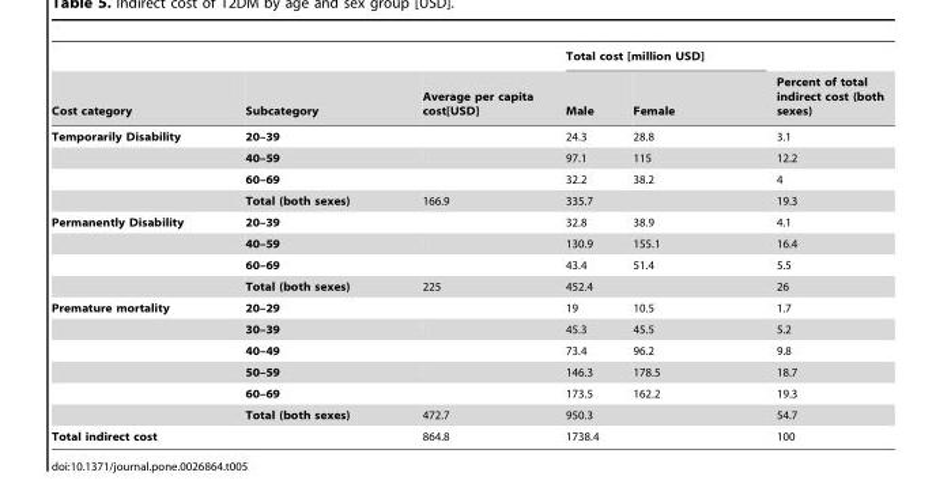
<table><thead><tr><td rowspan="2">Cost category</td><td rowspan="2">Subcategory</td><td rowspan="2">Average per capita cost[USD]</td><td colspan="2">Total cost [million USD]</td><td rowspan="2">Percent of total indirect cost (both sexes)</td></tr><tr><td>Male</td><td>Female</td></tr></thead><tbody><tr><td rowspan="4">Temporarily Disability</td><td>20–39</td><td></td><td>24.3</td><td>28.8</td><td>3.1</td></tr><tr><td>40–59</td><td></td><td>97.1</td><td>115</td><td>12.2</td></tr><tr><td>60–69</td><td></td><td>32.2</td><td>38.2</td><td>4</td></tr><tr><td>Total (both sexes)</td><td>166.9</td><td colspan="2">335.7</td><td>19.3</td></tr><tr><td rowspan="4">Permanently Disability</td><td>20–39</td><td></td><td>32.8</td><td>38.9</td><td>4.1</td></tr><tr><td>40–59</td><td></td><td>130.9</td><td>155.1</td><td>16.4</td></tr><tr><td>60–69</td><td></td><td>43.4</td><td>51.4</td><td>5.5</td></tr><tr><td>Total (both sexes)</td><td>225</td><td colspan="2">452.4</td><td>26</td></tr><tr><td rowspan="6">Premature mortality</td><td>20–29</td><td></td><td>19</td><td>10.5</td><td>1.7</td></tr><tr><td>30–39</td><td></td><td>45.3</td><td>45.5</td><td>5.2</td></tr><tr><td>40–49</td><td></td><td>73.4</td><td>96.2</td><td>9.8</td></tr><tr><td>50–59</td><td></td><td>146.3</td><td>178.5</td><td>18.7</td></tr><tr><td>60–69</td><td></td><td>173.5</td><td>162.2</td><td>19.3</td></tr><tr><td>Total (both sexes)</td><td>472.7</td><td colspan="2">950.3</td><td>54.7</td></tr><tr><td>Total indirect cost</td><td></td><td>864.8</td><td colspan="2">1738.4</td><td>100</td></tr></tbody></table>